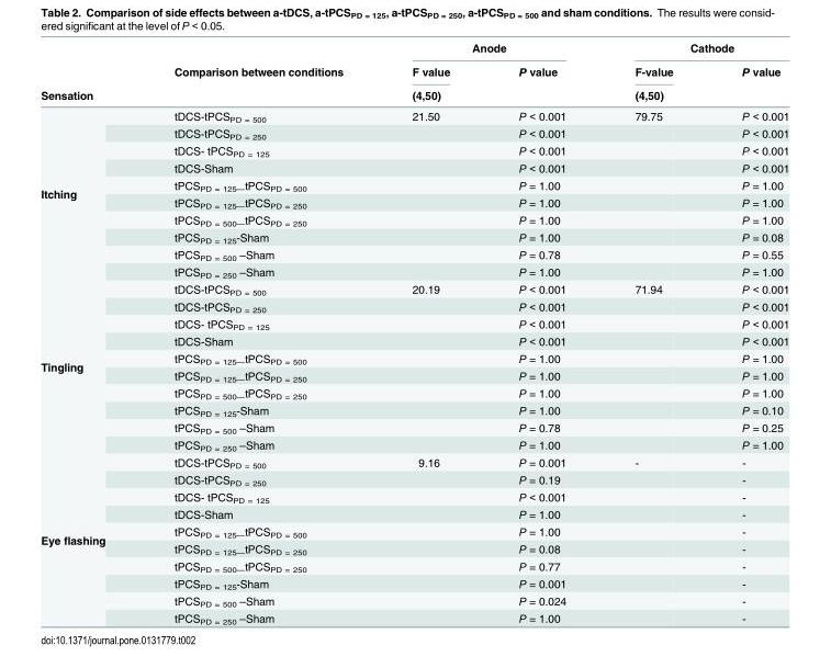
<table><thead><tr><td rowspan="3">Sensation</td><td rowspan="3">Comparison between conditions</td><td colspan="2">Anode</td><td colspan="2">Cathode</td></tr><tr><td rowspan="2">F value (4,50)</td><td rowspan="2">P value</td><td rowspan="2">F-value (4,50)</td><td rowspan="2">P value</td></tr><tr></tr></thead><tbody><tr><td rowspan="10">Itching</td><td>tDCS-tPCS<sub>PD = 500</sub></td><td>21.50</td><td>P &lt; 0.001</td><td>79.75</td><td>P &lt; 0.001</td></tr><tr><td>tDCS-tPCS<sub>PD = 250</sub></td><td></td><td>P &lt; 0.001</td><td></td><td>P &lt; 0.001</td></tr><tr><td>tDCS- tPCS<sub>PD = 125</sub></td><td></td><td>P &lt; 0.001</td><td></td><td>P &lt; 0.001</td></tr><tr><td>tDCS-Sham</td><td></td><td>P &lt; 0.001</td><td></td><td>P &lt; 0.001</td></tr><tr><td>tPCS<sub>PD = 125—</sub>tPCS<sub>PD = 500</sub></td><td></td><td>P = 1.00</td><td></td><td>P = 1.00</td></tr><tr><td>tPCS<sub>PD = 125—</sub>tPCS<sub>PD = 250</sub></td><td></td><td>P = 1.00</td><td></td><td>P = 1.00</td></tr><tr><td>tPCS<sub>PD = 500—</sub>tPCS<sub>PD = 250</sub></td><td></td><td>P = 1.00</td><td></td><td>P = 1.00</td></tr><tr><td>tPCS<sub>PD = 125</sub>-Sham</td><td></td><td>P = 1.00</td><td></td><td>P = 0.08</td></tr><tr><td>tPCS<sub>PD = 500</sub> –Sham</td><td></td><td>P = 0.78</td><td></td><td>P = 0.55</td></tr><tr><td>tPCS<sub>PD = 250</sub> –Sham</td><td></td><td>P = 1.00</td><td></td><td>P = 1.00</td></tr><tr><td rowspan="10">Tingling</td><td>tDCS-tPCS<sub>PD = 500</sub></td><td>20.19</td><td>P &lt; 0.001</td><td>71.94</td><td>P &lt; 0.001</td></tr><tr><td>tDCS-tPCS<sub>PD = 250</sub></td><td></td><td>P &lt; 0.001</td><td></td><td>P &lt; 0.001</td></tr><tr><td>tDCS- tPCS<sub>PD = 125</sub></td><td></td><td>P &lt; 0.001</td><td></td><td>P &lt; 0.001</td></tr><tr><td>tDCS-Sham</td><td></td><td>P &lt; 0.001</td><td></td><td>P &lt; 0.001</td></tr><tr><td>tPCS<sub>PD = 125—</sub>tPCS<sub>PD = 500</sub></td><td></td><td>P = 1.00</td><td></td><td>P = 1.00</td></tr><tr><td>tPCS<sub>PD = 125—</sub>tPCS<sub>PD = 250</sub></td><td></td><td>P = 1.00</td><td></td><td>P = 1.00</td></tr><tr><td>tPCS<sub>PD = 500—</sub>tPCS<sub>PD = 250</sub></td><td></td><td>P = 1.00</td><td></td><td>P = 1.00</td></tr><tr><td>tPCS<sub>PD = 125</sub>-Sham</td><td></td><td>P = 1.00</td><td></td><td>P = 0.10</td></tr><tr><td>tPCS<sub>PD = 500</sub> –Sham</td><td></td><td>P = 0.78</td><td></td><td>P = 0.25</td></tr><tr><td>tPCS<sub>PD = 250</sub> –Sham</td><td></td><td>P = 1.00</td><td></td><td>P = 1.00</td></tr><tr><td rowspan="10">Eye flashing</td><td>tDCS-tPCS<sub>PD = 500</sub></td><td>9.16</td><td>P = 0.001</td><td>-</td><td>-</td></tr><tr><td>tDCS-tPCS<sub>PD = 250</sub></td><td></td><td>P = 0.19</td><td></td><td>-</td></tr><tr><td>tDCS- tPCS<sub>PD = 125</sub></td><td></td><td>P &lt; 0.001</td><td></td><td>-</td></tr><tr><td>tDCS-Sham</td><td></td><td>P = 1.00</td><td></td><td>-</td></tr><tr><td>tPCS<sub>PD = 125—</sub>tPCS<sub>PD = 500</sub></td><td></td><td>P = 1.00</td><td></td><td>-</td></tr><tr><td>tPCS<sub>PD = 125—</sub>tPCS<sub>PD = 250</sub></td><td></td><td>P = 0.08</td><td></td><td>-</td></tr><tr><td>tPCS<sub>PD = 500—</sub>tPCS<sub>PD = 250</sub></td><td></td><td>P = 0.77</td><td></td><td>-</td></tr><tr><td>tPCS<sub>PD = 125</sub>-Sham</td><td></td><td>P = 0.001</td><td></td><td>-</td></tr><tr><td>tPCS<sub>PD = 500</sub> –Sham</td><td></td><td>P = 0.024</td><td></td><td>-</td></tr><tr><td>tPCS<sub>PD = 250</sub> –Sham</td><td></td><td>P = 1.00</td><td></td><td>-</td></tr></tbody></table>